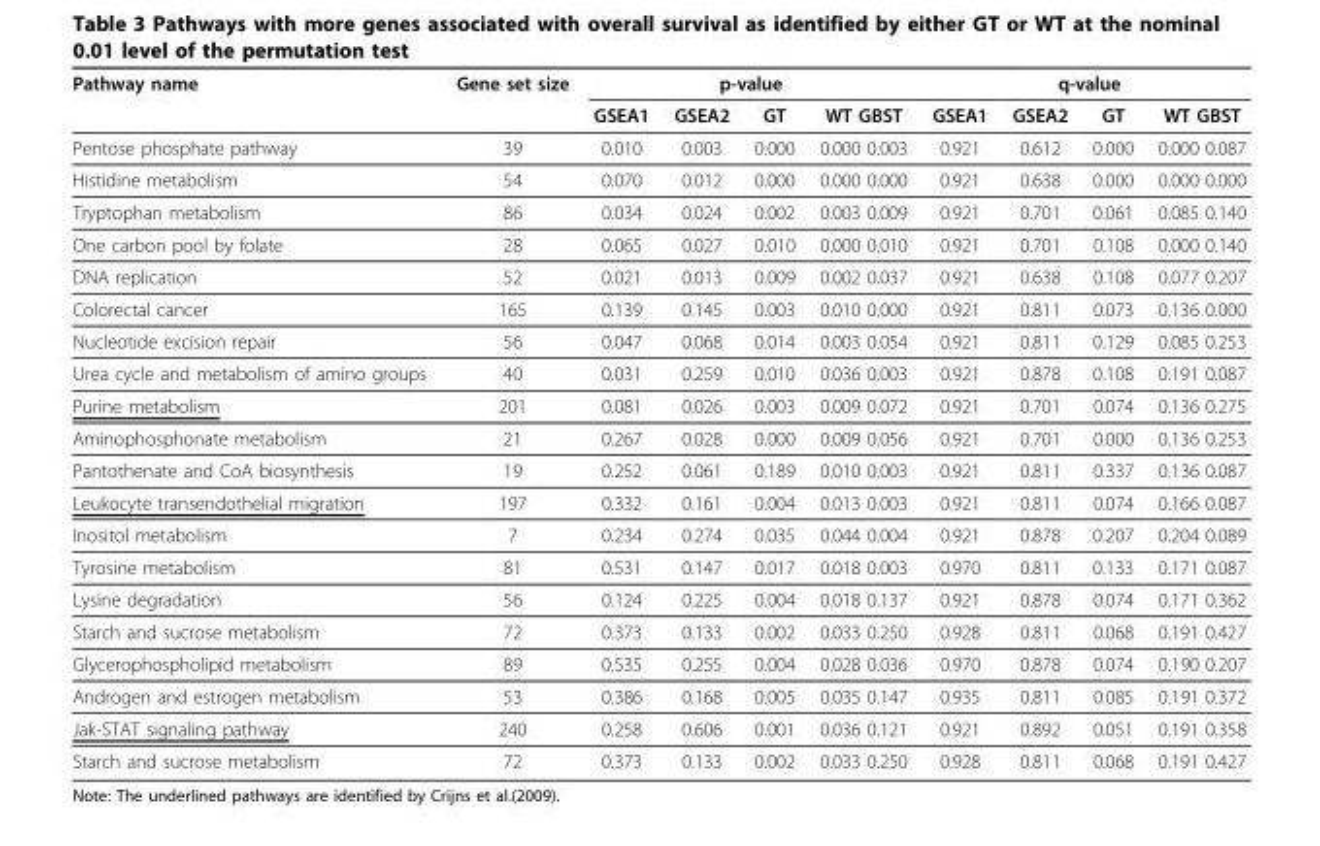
<table><thead><tr><td rowspan="2">Pathway name</td><td rowspan="2">Gene set size</td><td colspan="4">p-value</td><td colspan="4">q-value</td></tr><tr><td>GSEA1</td><td>GSEA2</td><td>GT</td><td>WT GBST</td><td>GSEA1</td><td>GSEA2</td><td>GT</td><td>WT GBST</td></tr></thead><tbody><tr><td>Pentose phosphate pathway</td><td>39</td><td>0.010</td><td>0.003</td><td>0.000</td><td>0.000 0.003</td><td>0.921</td><td>0.612</td><td>0.000</td><td>0.000 0.087</td></tr><tr><td>Histidine metabolism</td><td>54</td><td>0.070</td><td>0.012</td><td>0.000</td><td>0.000 0.000</td><td>0.921</td><td>0.638</td><td>0.000</td><td>0.000 0.000</td></tr><tr><td>Tryptophan metabolism</td><td>86</td><td>0.034</td><td>0.024</td><td>0.002</td><td>0.003 0.009</td><td>0.921</td><td>0.701</td><td>0.061</td><td>0.085 0.140</td></tr><tr><td>One carbon pool by folate</td><td>28</td><td>0.065</td><td>0.027</td><td>0.010</td><td>0.000 0.010</td><td>0.921</td><td>0.701</td><td>0.108</td><td>0.000 0.140</td></tr><tr><td>DNA replication</td><td>52</td><td>0.021</td><td>0.013</td><td>0.009</td><td>0.002 0.037</td><td>0.921</td><td>0.638</td><td>0.108</td><td>0.077 0.207</td></tr><tr><td>Colorectal cancer</td><td>165</td><td>0.139</td><td>0.145</td><td>0.003</td><td>0.010 0.000</td><td>0.921</td><td>0.811</td><td>0.073</td><td>0.136 0.000</td></tr><tr><td>Nucleotide excision repair</td><td>56</td><td>0.047</td><td>0.068</td><td>0.014</td><td>0.003 0.054</td><td>0.921</td><td>0.811</td><td>0.129</td><td>0.085 0.253</td></tr><tr><td>Urea cycle and metabolism of amino groups</td><td>40</td><td>0.031</td><td>0.259</td><td>0.010</td><td>0.036 0.003</td><td>0.921</td><td>0.878</td><td>0.108</td><td>0.191 0.087</td></tr><tr><td>Purine metabolism</td><td>201</td><td>0.081</td><td>0.026</td><td>0.003</td><td>0.009 0.072</td><td>0.921</td><td>0.701</td><td>0.074</td><td>0.136 0.275</td></tr><tr><td>Aminophosphonate metabolism</td><td>21</td><td>0.267</td><td>0.028</td><td>0.000</td><td>0.009 0.056</td><td>0.921</td><td>0.701</td><td>0.000</td><td>0.136 0.253</td></tr><tr><td>Pantothenate and CoA biosynthesis</td><td>19</td><td>0.252</td><td>0.061</td><td>0.189</td><td>0.010 0.003</td><td>0.921</td><td>0.811</td><td>0.337</td><td>0.136 0.087</td></tr><tr><td>Leukocyte transendothelial migration</td><td>197</td><td>0.332</td><td>0.161</td><td>0.004</td><td>0.013 0.003</td><td>0.921</td><td>0.811</td><td>0.074</td><td>0.166 0.087</td></tr><tr><td>Inositol metabolism</td><td>7</td><td>0.234</td><td>0.274</td><td>0.035</td><td>0.044 0.004</td><td>0.921</td><td>0.878</td><td>0.207</td><td>0.204 0.089</td></tr><tr><td>Tyrosine metabolism</td><td>81</td><td>0.531</td><td>0.147</td><td>0.017</td><td>0.018 0.003</td><td>0.970</td><td>0.811</td><td>0.133</td><td>0.171 0.087</td></tr><tr><td>Lysine degradation</td><td>56</td><td>0.124</td><td>0.225</td><td>0.004</td><td>0.018 0.137</td><td>0.921</td><td>0.878</td><td>0.074</td><td>0.171 0.362</td></tr><tr><td>Starch and sucrose metabolism</td><td>72</td><td>0.373</td><td>0.133</td><td>0.002</td><td>0.033 0.250</td><td>0.928</td><td>0.811</td><td>0.068</td><td>0.191 0.427</td></tr><tr><td>Glycerophospholipid metabolism</td><td>89</td><td>0.535</td><td>0.255</td><td>0.004</td><td>0.028 0.036</td><td>0.970</td><td>0.878</td><td>0.074</td><td>0.190 0.207</td></tr><tr><td>Androgen and estrogen metabolism</td><td>53</td><td>0.386</td><td>0.168</td><td>0.005</td><td>0.035 0.147</td><td>0.935</td><td>0.811</td><td>0.085</td><td>0.191 0.372</td></tr><tr><td>Jak-STAT signaling pathway</td><td>240</td><td>0.258</td><td>0.606</td><td>0.001</td><td>0.036 0.121</td><td>0.921</td><td>0.892</td><td>0.051</td><td>0.191 0.358</td></tr><tr><td>Starch and sucrose metabolism</td><td>72</td><td>0.373</td><td>0.133</td><td>0.002</td><td>0.033 0.250</td><td>0.928</td><td>0.811</td><td>0.068</td><td>0.191 0.427</td></tr></tbody></table>